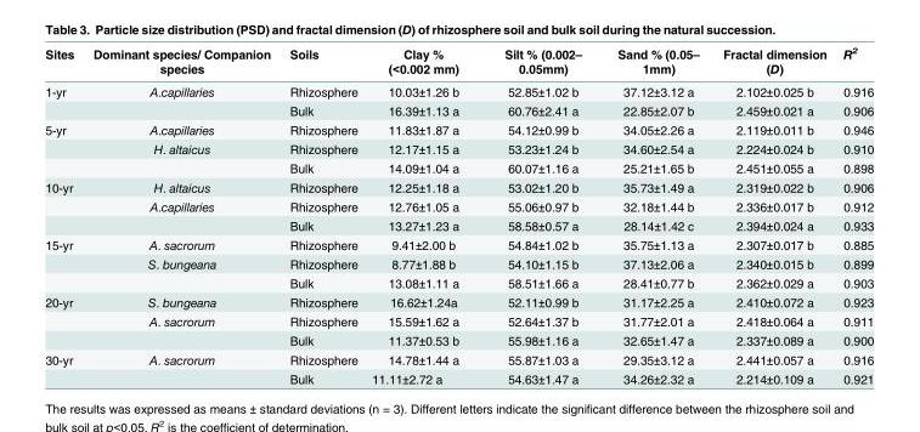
<table><thead><tr><td>Sites</td><td>Dominant species/ Companion species</td><td>Soils</td><td>Clay % (&lt;0.002 mm)</td><td>Silt % (0.002– 0.05mm)</td><td>Sand % (0.05– 1mm)</td><td>Fractal dimension (D)</td><td>R<sup>2</sup></td></tr></thead><tbody><tr><td rowspan="2">1-yr</td><td>A.capillaries</td><td>Rhizosphere</td><td>10.03±1.26 b</td><td>52.85±1.02 b</td><td>37.12±3.12 a</td><td>2.102±0.025 b</td><td>0.916</td></tr><tr><td></td><td>Bulk</td><td>16.39±1.13 a</td><td>60.76±2.41 a</td><td>22.85±2.07 b</td><td>2.459±0.021 a</td><td>0.906</td></tr><tr><td rowspan="3">5-yr</td><td>A.capillaries</td><td>Rhizosphere</td><td>11.83±1.87 a</td><td>54.12±0.99 b</td><td>34.05±2.26 a</td><td>2.119±0.011 b</td><td>0.946</td></tr><tr><td>H. altaicus</td><td>Rhizosphere</td><td>12.17±1.15 a</td><td>53.23±1.24 b</td><td>34.60±2.54 a</td><td>2.224±0.024 b</td><td>0.910</td></tr><tr><td></td><td>Bulk</td><td>14.09±1.04 a</td><td>60.07±1.16 a</td><td>25.21±1.65 b</td><td>2.451±0.055 a</td><td>0.898</td></tr><tr><td rowspan="3">10-yr</td><td>H. altaicus</td><td>Rhizosphere</td><td>12.25±1.18 a</td><td>53.02±1.20 b</td><td>35.73±1.49 a</td><td>2.319±0.022 b</td><td>0.906</td></tr><tr><td>A.capillaries</td><td>Rhizosphere</td><td>12.76±1.05 a</td><td>55.06±0.97 b</td><td>32.18±1.44 b</td><td>2.336±0.017 b</td><td>0.912</td></tr><tr><td></td><td>Bulk</td><td>13.27±1.23 a</td><td>58.58±0.57 a</td><td>28.14±1.42 c</td><td>2.394±0.024 a</td><td>0.933</td></tr><tr><td rowspan="3">15-yr</td><td>A. sacrorum</td><td>Rhizosphere</td><td>9.41±2.00 b</td><td>54.84±1.02 b</td><td>35.75±1.13 a</td><td>2.307±0.017 b</td><td>0.885</td></tr><tr><td>S. bungeana</td><td>Rhizosphere</td><td>8.77±1.88 b</td><td>54.10±1.15 b</td><td>37.13±2.06 a</td><td>2.340±0.015 b</td><td>0.899</td></tr><tr><td></td><td>Bulk</td><td>13.08±1.11 a</td><td>58.51±1.66 a</td><td>28.41±0.77 b</td><td>2.362±0.029 a</td><td>0.903</td></tr><tr><td rowspan="3">20-yr</td><td>S. bungeana</td><td>Rhizosphere</td><td>16.62±1.24a</td><td>52.11±0.99 b</td><td>31.17±2.25 a</td><td>2.410±0.072 a</td><td>0.923</td></tr><tr><td>A. sacrorum</td><td>Rhizosphere</td><td>15.59±1.62 a</td><td>52.64±1.37 b</td><td>31.77±2.01 a</td><td>2.418±0.064 a</td><td>0.911</td></tr><tr><td></td><td>Bulk</td><td>11.37±0.53 b</td><td>55.98±1.16 a</td><td>32.65±1.47 a</td><td>2.337±0.089 a</td><td>0.900</td></tr><tr><td rowspan="2">30-yr</td><td>A. sacrorum</td><td>Rhizosphere</td><td>14.78±1.44 a</td><td>55.87±1.03 a</td><td>29.35±3.12 a</td><td>2.441±0.057 a</td><td>0.916</td></tr><tr><td></td><td>Bulk</td><td>11.11±2.72 a</td><td>54.63±1.47 a</td><td>34.26±2.32 a</td><td>2.214±0.109 a</td><td>0.921</td></tr></tbody></table>